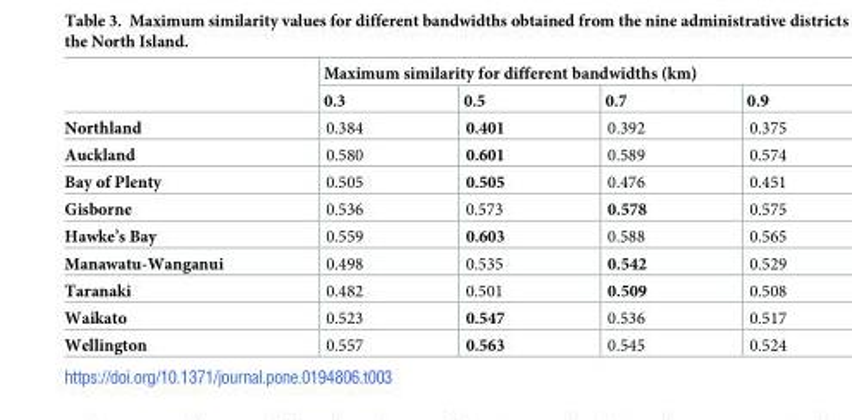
<table><thead><tr><td rowspan="2"></td><td colspan="4">Maximum similarity for different bandwidths (km)</td></tr><tr><td>0.3</td><td>0.5</td><td>0.7</td><td>0.9</td></tr></thead><tbody><tr><td>Northland</td><td>0.384</td><td>0.401</td><td>0.392</td><td>0.375</td></tr><tr><td>Auckland</td><td>0.580</td><td>0.601</td><td>0.589</td><td>0.574</td></tr><tr><td>Bay of Plenty</td><td>0.505</td><td>0.505</td><td>0.476</td><td>0.451</td></tr><tr><td>Gisborne</td><td>0.536</td><td>0.573</td><td>0.578</td><td>0.575</td></tr><tr><td>Hawke’s Bay</td><td>0.559</td><td>0.603</td><td>0.588</td><td>0.565</td></tr><tr><td>Manawatu-Wanganui</td><td>0.498</td><td>0.535</td><td>0.542</td><td>0.529</td></tr><tr><td>Taranaki</td><td>0.482</td><td>0.501</td><td>0.509</td><td>0.508</td></tr><tr><td>Waikato</td><td>0.523</td><td>0.547</td><td>0.536</td><td>0.517</td></tr><tr><td>Wellington</td><td>0.557</td><td>0.563</td><td>0.545</td><td>0.524</td></tr></tbody></table>